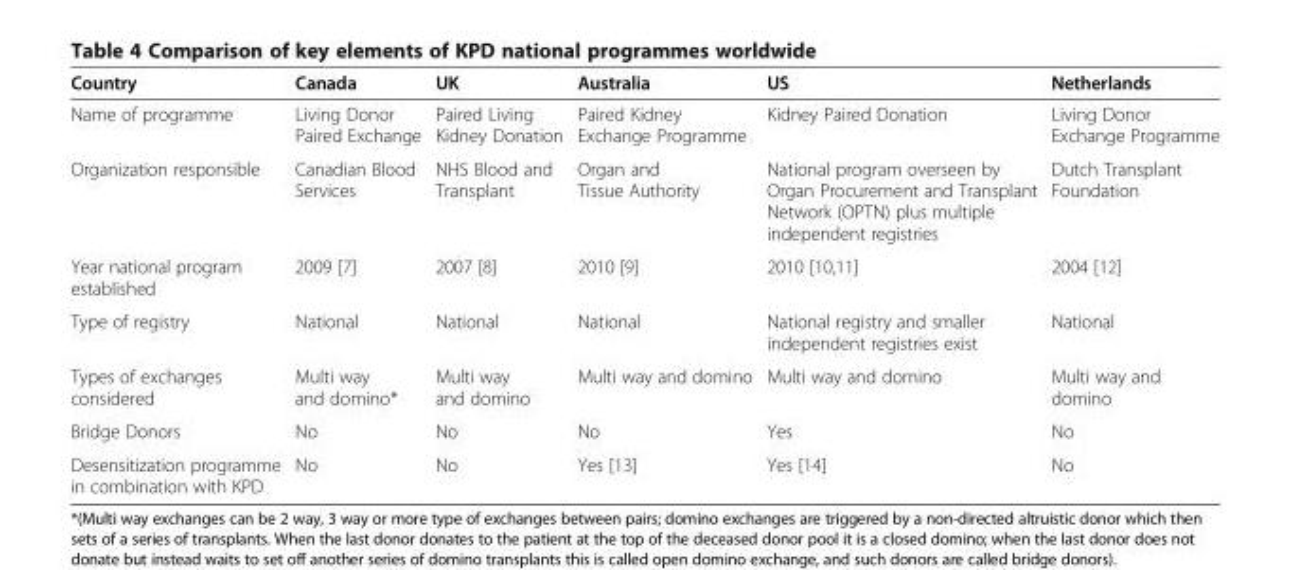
<table><thead><tr><td>Country</td><td>Canada</td><td>UK</td><td>Australia</td><td>US</td><td>Netherlands</td></tr></thead><tbody><tr><td>Name of programme</td><td>Living Donor Paired Exchange</td><td>Paired Living Kidney Donation</td><td>Paired Kidney Exchange Programme</td><td>Kidney Paired Donation</td><td>Living Donor Exchange Programme</td></tr><tr><td>Organization responsible</td><td>Canadian Blood Services</td><td>NHS Blood and Transplant</td><td>Organ and Tissue Authority</td><td>National program overseen by Organ Procurement and Transplant Network (OPTN) plus multiple independent registries</td><td>Dutch Transplant Foundation</td></tr><tr><td>Year national program established</td><td>2009 [7]</td><td>2007 [8]</td><td>2010 [9]</td><td>2010 [10,11]</td><td>2004 [12]</td></tr><tr><td>Type of registry</td><td>National</td><td>National</td><td>National</td><td>National registry and smaller independent registries exist</td><td>National</td></tr><tr><td>Types of exchanges considered</td><td>Multi way and domino*</td><td>Multi way and domino</td><td>Multi way and domino</td><td>Multi way and domino</td><td>Multi way and domino</td></tr><tr><td>Bridge Donors</td><td>No</td><td>No</td><td>No</td><td>Yes</td><td>No</td></tr><tr><td>Desensitization programme in combination with KPD</td><td>No</td><td>No</td><td>Yes [13]</td><td>Yes [14]</td><td>No</td></tr></tbody></table>